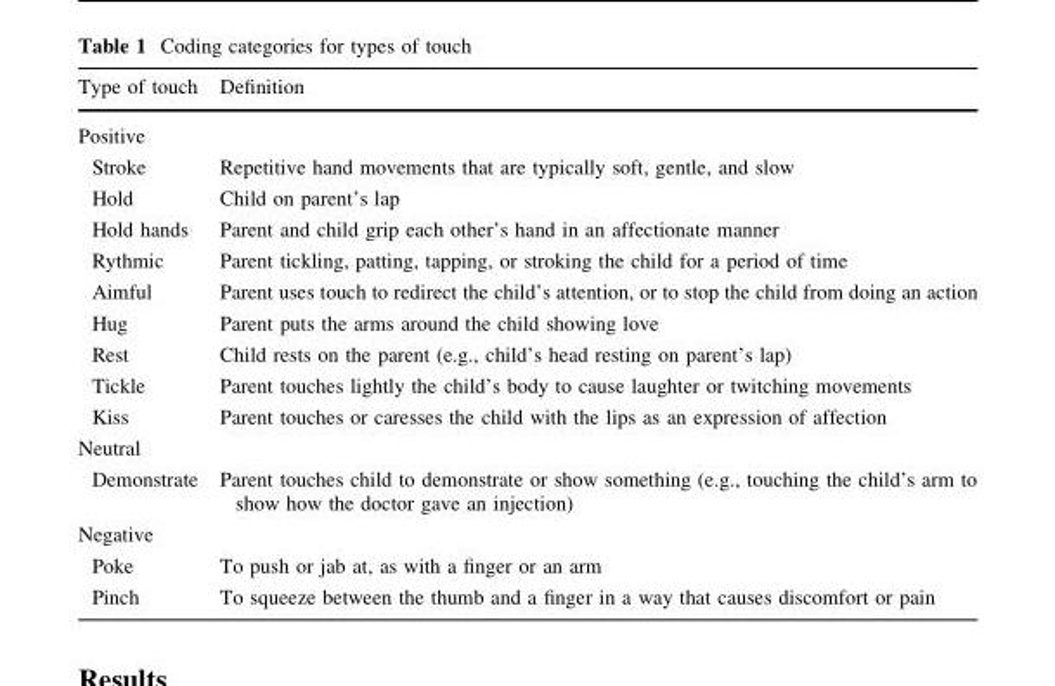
<table><thead><tr><td>Type of touch</td><td>Definition</td></tr></thead><tbody><tr><td colspan="2">Positive</td></tr><tr><td>Stroke</td><td>Repetitive hand movements that are typically soft, gentle, and slow</td></tr><tr><td>Hold</td><td>Child on parent’s lap</td></tr><tr><td>Hold hands</td><td>Parent and child grip each other’s hand in an affectionate manner</td></tr><tr><td>Rythmic</td><td>Parent tickling, patting, tapping, or stroking the child for a period of time</td></tr><tr><td>Aimful</td><td>Parent uses touch to redirect the child’s attention, or to stop the child from doing an action</td></tr><tr><td>Hug</td><td>Parent puts the arms around the child showing love</td></tr><tr><td>Rest</td><td>Child rests on the parent (e.g., child’s head resting on parent’s lap)</td></tr><tr><td>Tickle</td><td>Parent touches lightly the child’s body to cause laughter or twitching movements</td></tr><tr><td>Kiss</td><td>Parent touches or caresses the child with the lips as an expression of affection</td></tr><tr><td colspan="2">Neutral</td></tr><tr><td>Demonstrate</td><td>Parent touches child to demonstrate or show something (e.g., touching the child’s arm to show how the doctor gave an injection)</td></tr><tr><td colspan="2">Negative</td></tr><tr><td>Poke</td><td>To push or jab at, as with a finger or an arm</td></tr><tr><td>Pinch</td><td>To squeeze between the thumb and a finger in a way that causes discomfort or pain</td></tr></tbody></table>